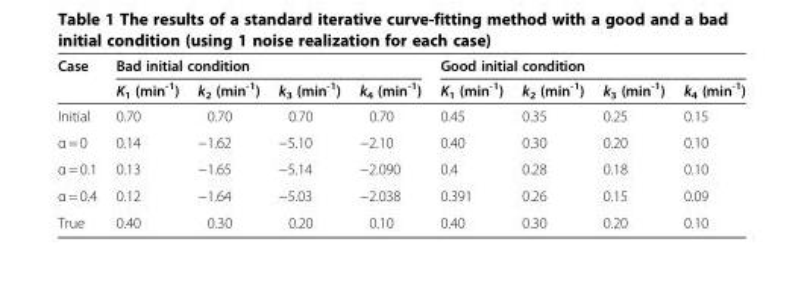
<table><thead><tr><td rowspan="2">Case</td><td colspan="4">Bad initial condition</td><td colspan="4">Good initial condition</td></tr><tr><td>K<sub>1</sub> (min<sup>-1</sup>)</td><td>k<sub>2</sub> (min<sup>-1</sup>)</td><td>k<sub>3</sub> (min<sup>-1</sup>)</td><td>k<sub>4</sub> (min<sup>-1</sup>)</td><td>K<sub>1</sub> (min<sup>-1</sup>)</td><td>k<sub>2</sub> (min<sup>-1</sup>)</td><td>k<sub>3</sub> (min<sup>-1</sup>)</td><td>k<sub>4</sub> (min<sup>-1</sup>)</td></tr></thead><tbody><tr><td>Initial</td><td>0.70</td><td>0.70</td><td>0.70</td><td>0.70</td><td>0.45</td><td>0.35</td><td>0.25</td><td>0.15</td></tr><tr><td>α = 0</td><td>0.14</td><td>−1.62</td><td>−5.10</td><td>−2.10</td><td>0.40</td><td>0.30</td><td>0.20</td><td>0.10</td></tr><tr><td>α = 0.1</td><td>0.13</td><td>−1.65</td><td>−5.14</td><td>−2.090</td><td>0.4</td><td>0.28</td><td>0.18</td><td>0.10</td></tr><tr><td>α = 0.4</td><td>0.12</td><td>−1.64</td><td>−5.03</td><td>−2.038</td><td>0.391</td><td>0.26</td><td>0.15</td><td>0.09</td></tr><tr><td>True</td><td>0.40</td><td>0.30</td><td>0.20</td><td>0.10</td><td>0.40</td><td>0.30</td><td>0.20</td><td>0.10</td></tr></tbody></table>